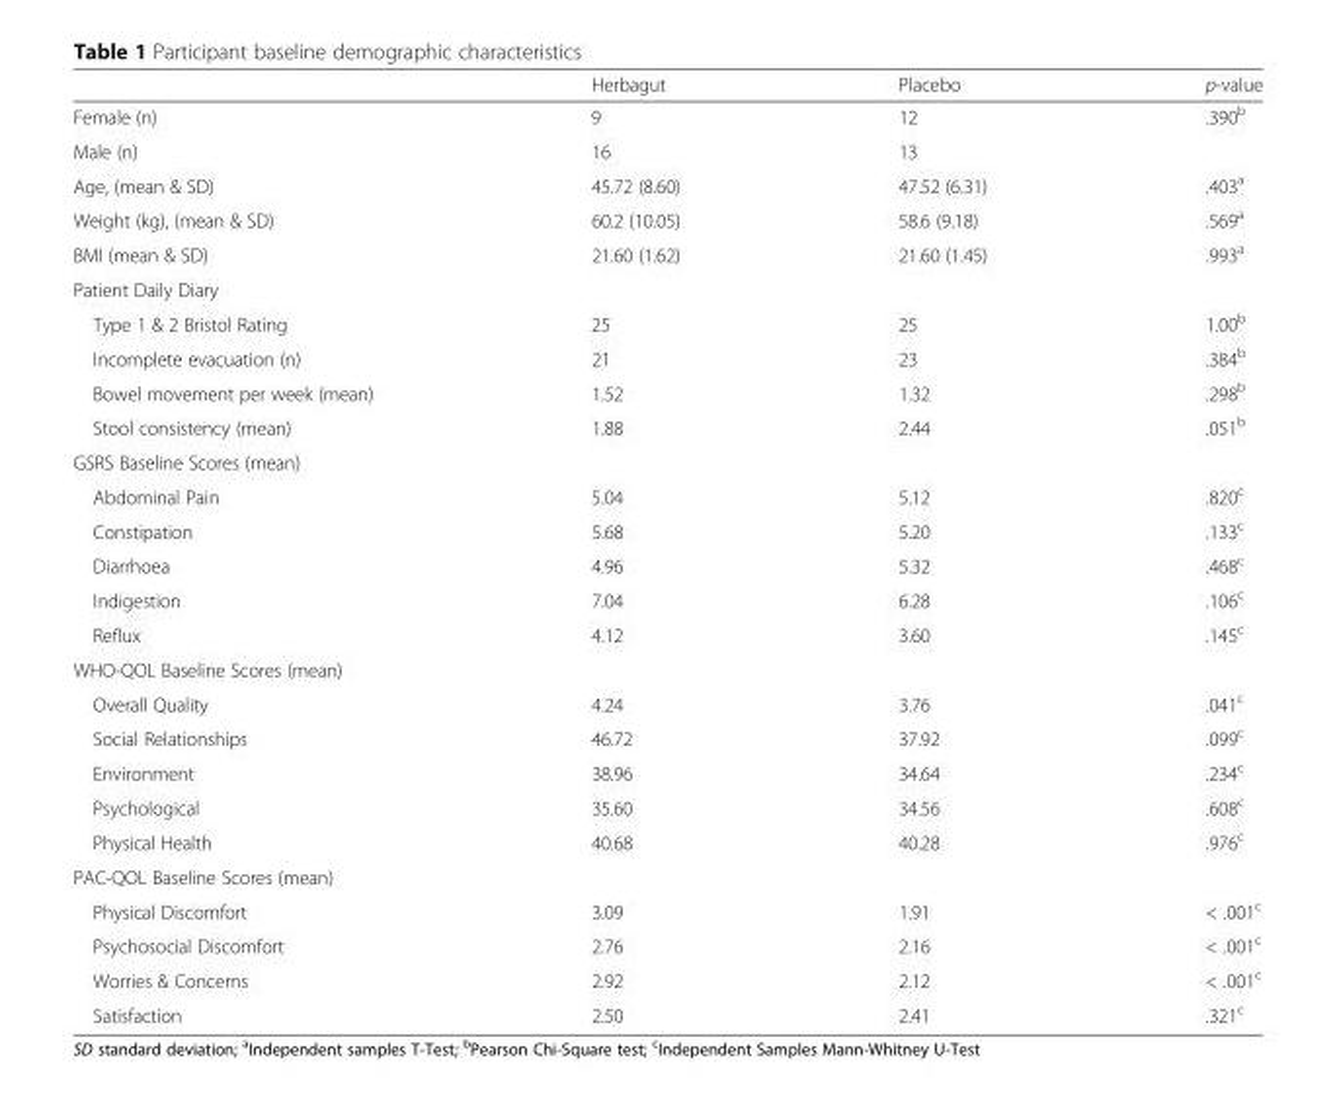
<table><thead><tr><td></td><td>Herbagut</td><td>Placebo</td><td>p-value</td></tr></thead><tbody><tr><td>Female (n)</td><td>9</td><td>12</td><td rowspan="2">.390<sup>b</sup></td></tr><tr><td>Male (n)</td><td>16</td><td>13</td></tr><tr><td>Age, (mean &amp; SD)</td><td>45.72 (8.60)</td><td>47.52 (6.31)</td><td>.403<sup>a</sup></td></tr><tr><td>Weight (kg), (mean &amp; SD)</td><td>60.2 (10.05)</td><td>58.6 (9.18)</td><td>.569<sup>a</sup></td></tr><tr><td>BMI (mean &amp; SD)</td><td>21.60 (1.62)</td><td>21.60 (1.45)</td><td>.993<sup>a</sup></td></tr><tr><td colspan="4">Patient Daily Diary</td></tr><tr><td>Type 1 &amp; 2 Bristol Rating</td><td>25</td><td>25</td><td>1.00<sup>b</sup></td></tr><tr><td>Incomplete evacuation (n)</td><td>21</td><td>23</td><td>.384<sup>b</sup></td></tr><tr><td>Bowel movement per week (mean)</td><td>1.52</td><td>1.32</td><td>.298<sup>b</sup></td></tr><tr><td>Stool consistency (mean)</td><td>1.88</td><td>2.44</td><td>.051<sup>b</sup></td></tr><tr><td colspan="4">GSRS Baseline Scores (mean)</td></tr><tr><td>Abdominal Pain</td><td>5.04</td><td>5.12</td><td>.820<sup>c</sup></td></tr><tr><td>Constipation</td><td>5.68</td><td>5.20</td><td>.133<sup>c</sup></td></tr><tr><td>Diarrhoea</td><td>4.96</td><td>5.32</td><td>.468<sup>c</sup></td></tr><tr><td>Indigestion</td><td>7.04</td><td>6.28</td><td>.106<sup>c</sup></td></tr><tr><td>Reflux</td><td>4.12</td><td>3.60</td><td>.145<sup>c</sup></td></tr><tr><td colspan="4">WHO-QOL Baseline Scores (mean)</td></tr><tr><td>Overall Quality</td><td>4.24</td><td>3.76</td><td>.041<sup>c</sup></td></tr><tr><td>Social Relationships</td><td>46.72</td><td>37.92</td><td>.099<sup>c</sup></td></tr><tr><td>Environment</td><td>38.96</td><td>34.64</td><td>.234<sup>c</sup></td></tr><tr><td>Psychological</td><td>35.60</td><td>34.56</td><td>.608<sup>c</sup></td></tr><tr><td>Physical Health</td><td>40.68</td><td>40.28</td><td>.976<sup>c</sup></td></tr><tr><td colspan="4">PAC-QOL Baseline Scores (mean)</td></tr><tr><td>Physical Discomfort</td><td>3.09</td><td>1.91</td><td>&lt; .001<sup>c</sup></td></tr><tr><td>Psychosocial Discomfort</td><td>2.76</td><td>2.16</td><td>&lt; .001<sup>c</sup></td></tr><tr><td>Worries &amp; Concerns</td><td>2.92</td><td>2.12</td><td>&lt; .001<sup>c</sup></td></tr><tr><td>Satisfaction</td><td>2.50</td><td>2.41</td><td>.321<sup>c</sup></td></tr></tbody></table>